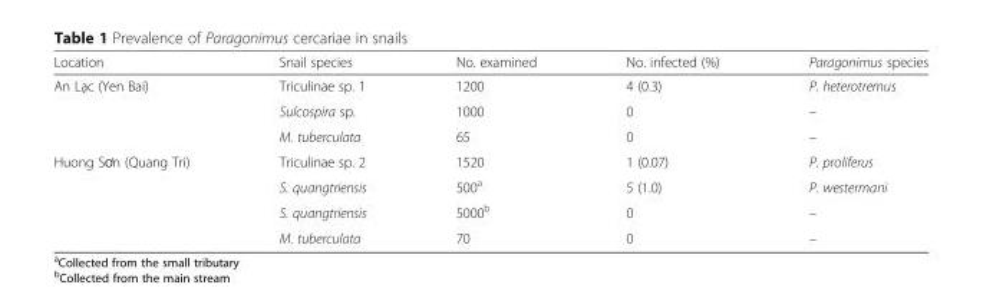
<table><thead><tr><td>Location</td><td>Snail species</td><td>No. examined</td><td>No. infected (%)</td><td>Paragonimus species</td></tr></thead><tbody><tr><td rowspan="3">An Lạc (Yen Bai)</td><td>Triculinae sp. 1</td><td>1200</td><td>4 (0.3)</td><td>P. heterotremus</td></tr><tr><td>Sulcospira sp.</td><td>1000</td><td>0</td><td>–</td></tr><tr><td>M. tuberculata</td><td>65</td><td>0</td><td>–</td></tr><tr><td rowspan="4">Huong Sơn (Quang Tri)</td><td>Triculinae sp. 2</td><td>1520</td><td>1 (0.07)</td><td>P. proliferus</td></tr><tr><td>S. quangtriensis</td><td>500<sup>a</sup></td><td>5 (1.0)</td><td>P. westermani</td></tr><tr><td>S. quangtriensis</td><td>5000<sup>b</sup></td><td>0</td><td>–</td></tr><tr><td>M. tuberculata</td><td>70</td><td>0</td><td>–</td></tr></tbody></table>